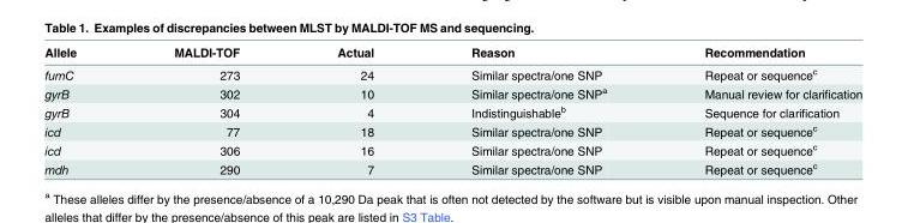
<table><thead><tr><td>Allele</td><td>MALDI-TOF</td><td>Actual</td><td>Reason</td><td>Recommendation</td></tr></thead><tbody><tr><td>fumC</td><td>273</td><td>24</td><td>Similar spectra/one SNP</td><td>Repeat or sequence<sup>c</sup></td></tr><tr><td>gyrB</td><td>302</td><td>10</td><td>Similar spectra/one SNP<sup>a</sup></td><td>Manual review for clarification</td></tr><tr><td>gyrB</td><td>304</td><td>4</td><td>Indistinguishable<sup>b</sup></td><td>Sequence for clarification</td></tr><tr><td>icd</td><td>77</td><td>18</td><td>Similar spectra/one SNP</td><td>Repeat or sequence<sup>c</sup></td></tr><tr><td>icd</td><td>306</td><td>16</td><td>Similar spectra/one SNP</td><td>Repeat or sequence<sup>c</sup></td></tr><tr><td>mdh</td><td>290</td><td>7</td><td>Similar spectra/one SNP</td><td>Repeat or sequence<sup>c</sup></td></tr></tbody></table>